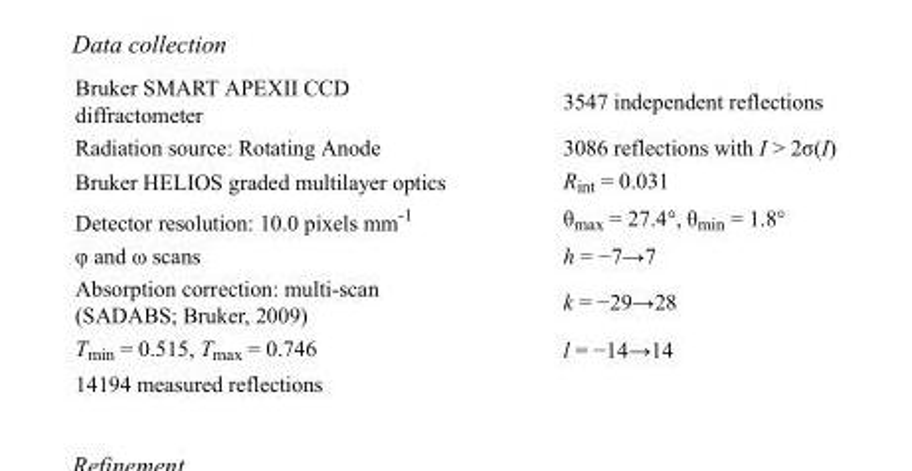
<table><tbody><tr><td>Bruker SMART APEXII CCD diffractometer</td><td>3547 independent reflections</td></tr><tr><td>Radiation source: Rotating Anode</td><td>3086 reflections with I &gt; 2σ(I)</td></tr><tr><td>Bruker HELIOS graded multilayer optics</td><td>R<sub>int</sub> = 0.031</td></tr><tr><td>Detector resolution: 10.0 pixels mm<sup>-1</sup></td><td>θ<sub>max</sub> = 27.4°, θ<sub>min</sub> = 1.8°</td></tr><tr><td>φ and ω scans</td><td>h = −7→7</td></tr><tr><td>Absorption correction: multi-scan (SADABS; Bruker, 2009)</td><td>k = −29→28</td></tr><tr><td>T<sub>min</sub> = 0.515, T<sub>max</sub> = 0.746</td><td>l = −14→14</td></tr><tr><td>14194 measured reflections</td><td></td></tr></tbody></table>